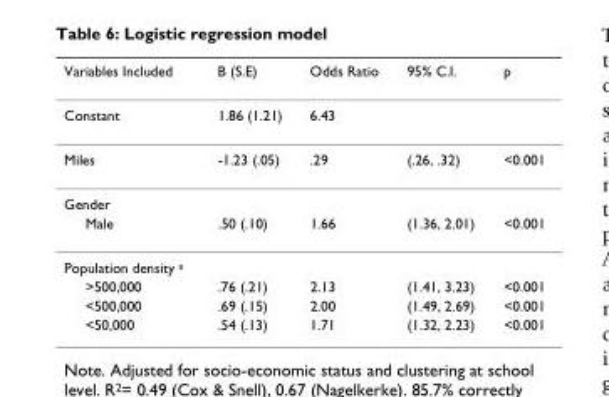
<table><thead><tr><td>Variables Included</td><td>B (S.E)</td><td>Odds Ratio</td><td>95% C.I.</td><td>p</td></tr></thead><tbody><tr><td>Constant</td><td>1.86 (1.21)</td><td>6.43</td><td></td><td></td></tr><tr><td>Miles</td><td>-1.23 (.05)</td><td>.29</td><td>(.26, .32)</td><td>&lt;0.001</td></tr><tr><td colspan="5">Gender</td></tr><tr><td>Male</td><td>.50 (.10)</td><td>1.66</td><td>(1.36, 2.01)</td><td>&lt;0.001</td></tr><tr><td colspan="5">Population density <sup>a</sup></td></tr><tr><td>&gt;500,000</td><td>.76 (.21)</td><td>2.13</td><td>(1.41, 3.23)</td><td>&lt;0.001</td></tr><tr><td>&lt;500,000</td><td>.69 (.15)</td><td>2.00</td><td>(1.49, 2.69)</td><td>&lt;0.001</td></tr><tr><td>&lt;50,000</td><td>.54 (.13)</td><td>1.71</td><td>(1.32, 2.23)</td><td>&lt;0.001</td></tr></tbody></table>